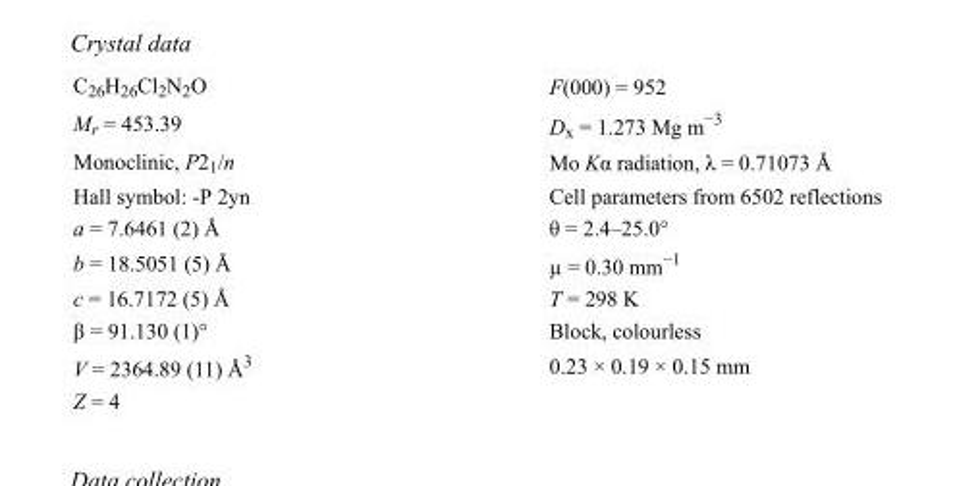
<table><tbody><tr><td>C<sub>26</sub>H<sub>26</sub>Cl<sub>2</sub>N<sub>2</sub>O</td><td>F(000) = 952</td></tr><tr><td>M<sub>r</sub> = 453.39</td><td>D<sub>x</sub> = 1.273 Mg m<sup>−3</sup></td></tr><tr><td>Monoclinic, P2<sub>1</sub>/n</td><td>Mo Kα radiation, λ = 0.71073 Å</td></tr><tr><td>Hall symbol: -P 2yn</td><td>Cell parameters from 6502 reflections</td></tr><tr><td>a = 7.6461 (2) Å</td><td>θ = 2.4–25.0°</td></tr><tr><td>b = 18.5051 (5) Å</td><td>µ = 0.30 mm<sup>−1</sup></td></tr><tr><td>c = 16.7172 (5) Å</td><td>T = 298 K</td></tr><tr><td>β = 91.130 (1)°</td><td>Block, colourless</td></tr><tr><td>V = 2364.89 (11) Å<sup>3</sup></td><td>0.23 × 0.19 × 0.15 mm</td></tr><tr><td>Z = 4</td><td></td></tr></tbody></table>